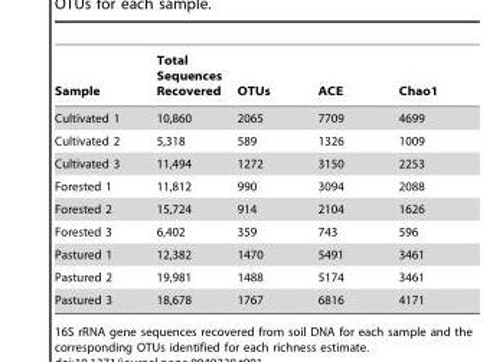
<table><thead><tr><td>Sample</td><td>Total Sequences Recovered</td><td>OTUs</td><td>ACE</td><td>Chao1</td></tr></thead><tbody><tr><td>Cultivated 1</td><td>10,860</td><td>2065</td><td>7709</td><td>4699</td></tr><tr><td>Cultivated 2</td><td>5,318</td><td>589</td><td>1326</td><td>1009</td></tr><tr><td>Cultivated 3</td><td>11,494</td><td>1272</td><td>3150</td><td>2253</td></tr><tr><td>Forested 1</td><td>11,812</td><td>990</td><td>3094</td><td>2088</td></tr><tr><td>Forested 2</td><td>15,724</td><td>914</td><td>2104</td><td>1626</td></tr><tr><td>Forested 3</td><td>6,402</td><td>359</td><td>743</td><td>596</td></tr><tr><td>Pastured 1</td><td>12,382</td><td>1470</td><td>5491</td><td>3461</td></tr><tr><td>Pastured 2</td><td>19,981</td><td>1488</td><td>5174</td><td>3461</td></tr><tr><td>Pastured 3</td><td>18,678</td><td>1767</td><td>6816</td><td>4171</td></tr></tbody></table>